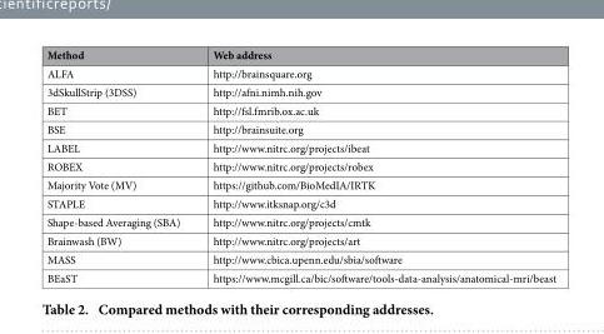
<table><thead><tr><td>Method</td><td>Web address</td></tr></thead><tbody><tr><td>ALFA</td><td>http://brainsquare.org</td></tr><tr><td>3dSkullStrip (3DSS)</td><td>http://afni.nimh.nih.gov</td></tr><tr><td>BET</td><td>http://fsl.fmrib.ox.ac.uk</td></tr><tr><td>BSE</td><td>http://brainsuite.org</td></tr><tr><td>LABEL</td><td>http://www.nitrc.org/projects/ibeat</td></tr><tr><td>ROBEX</td><td>http://www.nitrc.org/projects/robex</td></tr><tr><td>Majority Vote (MV)</td><td>https://github.com/BioMedIA/IRTK</td></tr><tr><td>STAPLE</td><td>http://www.itksnap.org/c3d</td></tr><tr><td>Shape-based Averaging (SBA)</td><td>http://www.nitrc.org/projects/cmtk</td></tr><tr><td>Brainwash (BW)</td><td>http://www.nitrc.org/projects/art</td></tr><tr><td>MASS</td><td>http://www.cbica.upenn.edu/sbia/software</td></tr><tr><td>BEaST</td><td>https://www.mcgill.ca/bic/software/tools-data-analysis/anatomical-mri/beast</td></tr></tbody></table>